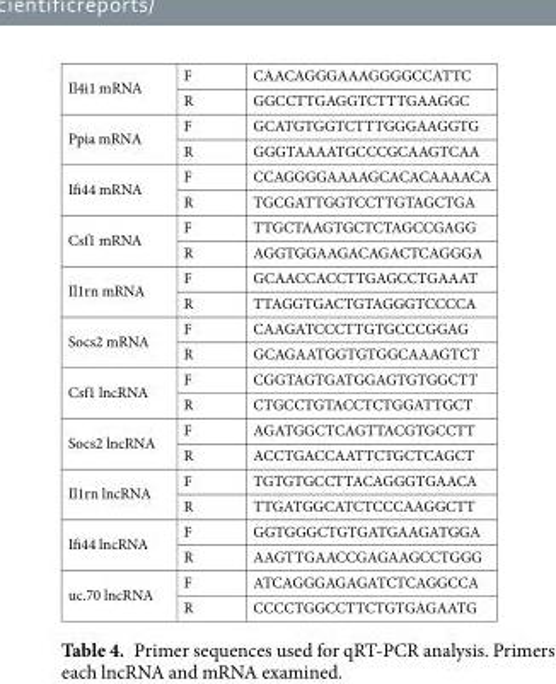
<table><tbody><tr><td rowspan="2">Il4i1 mRNA</td><td>F</td><td>CAACAGGGAAAGGGGCCATTC</td></tr><tr><td>R</td><td>GGCCTTGAGGTCTTTGAAGGC</td></tr><tr><td rowspan="2">Ppia mRNA</td><td>F</td><td>GCATGTGGTCTTTGGGAAGGTG</td></tr><tr><td>R</td><td>GGGTAAAATGCCCGCAAGTCAA</td></tr><tr><td rowspan="2">Ifi44 mRNA</td><td>F</td><td>CCAGGGGAAAAGCACACAAAACA</td></tr><tr><td>R</td><td>TGCGATTGGTCCTTGTAGCTGA</td></tr><tr><td rowspan="2">Csf1 mRNA</td><td>F</td><td>TTGCTAAGTGCTCTAGCCGAGG</td></tr><tr><td>R</td><td>AGGTGGAAGACAGACTCAGGGA</td></tr><tr><td rowspan="2">Il1rn mRNA</td><td>F</td><td>GCAACCACCTTGAGCCTGAAAT</td></tr><tr><td>R</td><td>TTAGGTGACTGTAGGGTCCCCA</td></tr><tr><td rowspan="2">Socs2 mRNA</td><td>F</td><td>CAAGATCCCTTGTGCCCGGAG</td></tr><tr><td>R</td><td>GCAGAATGGTGTGGCAAAGTCT</td></tr><tr><td rowspan="2">Csf1 lncRNA</td><td>F</td><td>CGGTAGTGATGGAGTGTGGCTT</td></tr><tr><td>R</td><td>CTGCCTGTACCTCTGGATTGCT</td></tr><tr><td rowspan="2">Socs2 lncRNA</td><td>F</td><td>AGATGGCTCAGTTACGTGCCTT</td></tr><tr><td>R</td><td>ACCTGACCAATTCTGCTCAGCT</td></tr><tr><td rowspan="2">Il1rn lncRNA</td><td>F</td><td>TGTGTGCCTTACAGGGTGAACA</td></tr><tr><td>R</td><td>TTGATGGCATCTCCCAAGGCTT</td></tr><tr><td rowspan="2">Ifi44 lncRNA</td><td>F</td><td>GGTGGGCTGTGATGAAGATGGA</td></tr><tr><td>R</td><td>AAGTTGAACCGAGAAGCCTGGG</td></tr><tr><td rowspan="2">uc.70 lncRNA</td><td>F</td><td>ATCAGGGAGAGATCTCAGGCCA</td></tr><tr><td>R</td><td>CCCCTGGCCTTCTGTGAGAATG</td></tr></tbody></table>